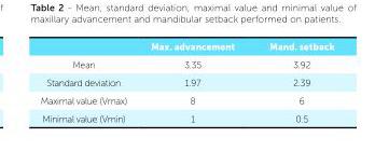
<table><thead><tr><td></td><td>Max. advancement</td><td>Mand. setback</td></tr></thead><tbody><tr><td>Mean</td><td>3.35</td><td>3.92</td></tr><tr><td>Standard deviation</td><td>1.97</td><td>2.39</td></tr><tr><td>Maximal value (Vmax)</td><td>8</td><td>6</td></tr><tr><td>Minimal value (Vmin)</td><td>1</td><td>0.5</td></tr></tbody></table>